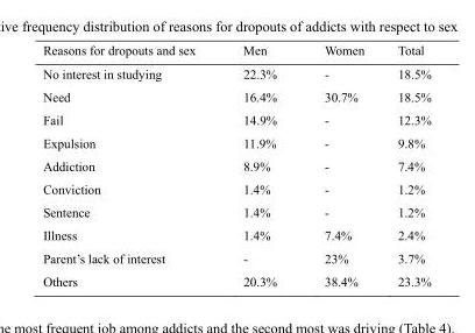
<table><thead><tr><td>Reasons for dropouts and sex</td><td>Men</td><td>Women</td><td>Total</td></tr></thead><tbody><tr><td>No interest in studying</td><td>22.3%</td><td>-</td><td>18.5%</td></tr><tr><td>Need</td><td>16.4%</td><td>30.7%</td><td>18.5%</td></tr><tr><td>Fail</td><td>14.9%</td><td>-</td><td>12.3%</td></tr><tr><td>Expulsion</td><td>11.9%</td><td>-</td><td>9.8%</td></tr><tr><td>Addiction</td><td>8.9%</td><td>-</td><td>7.4%</td></tr><tr><td>Conviction</td><td>1.4%</td><td>-</td><td>1.2%</td></tr><tr><td>Sentence</td><td>1.4%</td><td>-</td><td>1.2%</td></tr><tr><td>Illness</td><td>1.4%</td><td>7.4%</td><td>2.4%</td></tr><tr><td>Parent’s lack of interest</td><td>-</td><td>23%</td><td>3.7%</td></tr><tr><td>Others</td><td>20.3%</td><td>38.4%</td><td>23.3%</td></tr></tbody></table>